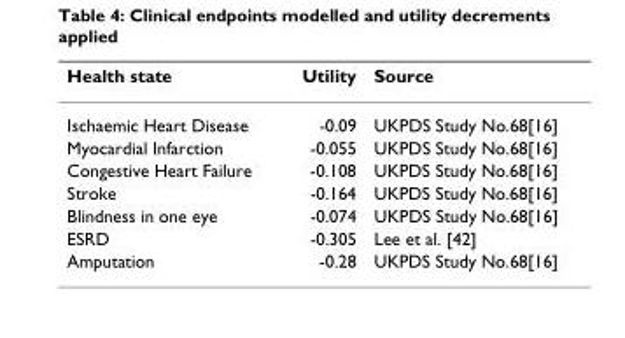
<table><thead><tr><td>Health state</td><td>Utility</td><td>Source</td></tr></thead><tbody><tr><td>Ischaemic Heart Disease</td><td>-0.09</td><td>UKPDS Study No.68[16]</td></tr><tr><td>Myocardial Infarction</td><td>-0.055</td><td>UKPDS Study No.68[16]</td></tr><tr><td>Congestive Heart Failure</td><td>-0.108</td><td>UKPDS Study No.68[16]</td></tr><tr><td>Stroke</td><td>-0.164</td><td>UKPDS Study No.68[16]</td></tr><tr><td>Blindness in one eye</td><td>-0.074</td><td>UKPDS Study No.68[16]</td></tr><tr><td>ESRD</td><td>-0.305</td><td>Lee et al. [42]</td></tr><tr><td>Amputation</td><td>-0.28</td><td>UKPDS Study No.68[16]</td></tr></tbody></table>